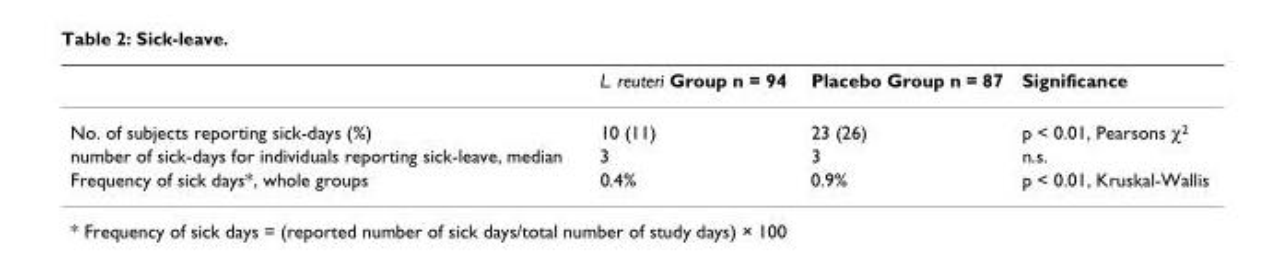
<table><thead><tr><td></td><td>L. reuteri Group n = 94</td><td>Placebo Group n = 87</td><td>Significance</td></tr></thead><tbody><tr><td>No. of subjects reporting sick-days (%)</td><td>10 (11)</td><td>23 (26)</td><td>p &lt; 0.01, Pearsons χ<sup>2</sup></td></tr><tr><td>number of sick-days for individuals reporting sick-leave, median</td><td>3</td><td>3</td><td>n.s.</td></tr><tr><td>Frequency of sick days*, whole groups</td><td>0.4%</td><td>0.9%</td><td>p &lt; 0.01, Kruskal-Wallis</td></tr></tbody></table>